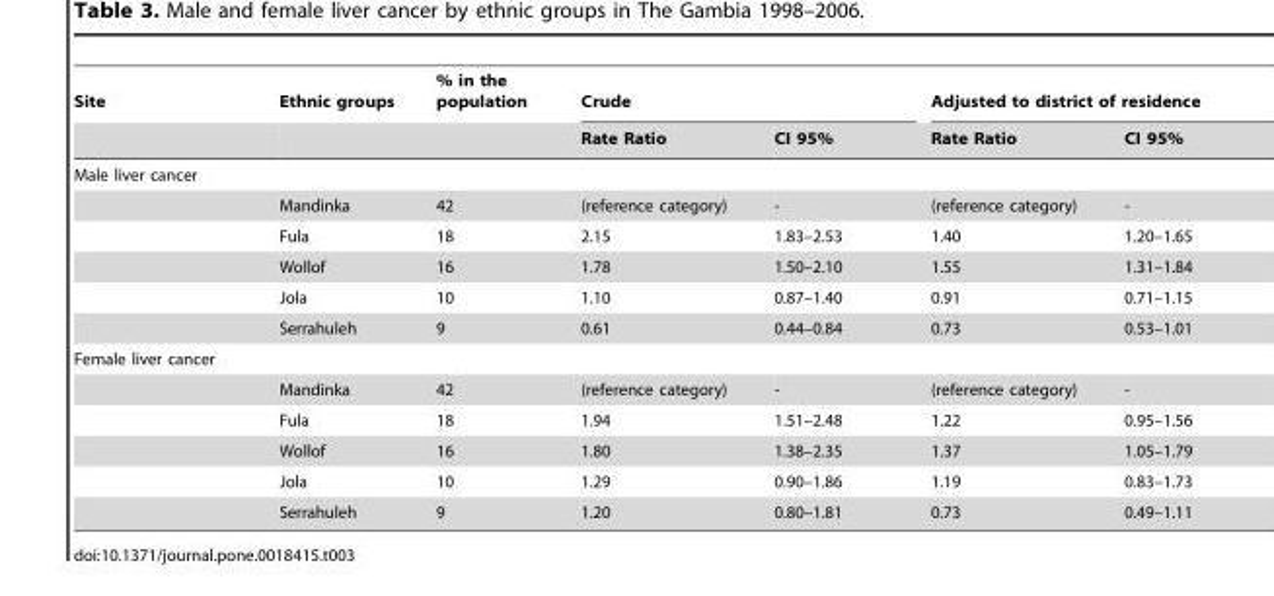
<table><thead><tr><td rowspan="2">Site</td><td rowspan="2">Ethnic groups</td><td rowspan="2">% in the population</td><td colspan="2">Crude</td><td colspan="2">Adjusted to district of residence</td></tr><tr><td>Rate Ratio</td><td>CI 95%</td><td>Rate Ratio</td><td>CI 95%</td></tr></thead><tbody><tr><td colspan="7">Male liver cancer</td></tr><tr><td></td><td>Mandinka</td><td>42</td><td>(reference category)</td><td>-</td><td>(reference category)</td><td>-</td></tr><tr><td></td><td>Fula</td><td>18</td><td>2.15</td><td>1.83–2.53</td><td>1.40</td><td>1.20–1.65</td></tr><tr><td></td><td>Wollof</td><td>16</td><td>1.78</td><td>1.50–2.10</td><td>1.55</td><td>1.31–1.84</td></tr><tr><td></td><td>Jola</td><td>10</td><td>1.10</td><td>0.87–1.40</td><td>0.91</td><td>0.71–1.15</td></tr><tr><td></td><td>Serrahuleh</td><td>9</td><td>0.61</td><td>0.44–0.84</td><td>0.73</td><td>0.53–1.01</td></tr><tr><td colspan="7">Female liver cancer</td></tr><tr><td></td><td>Mandinka</td><td>42</td><td>(reference category)</td><td>-</td><td>(reference category)</td><td>-</td></tr><tr><td></td><td>Fula</td><td>18</td><td>1.94</td><td>1.51–2.48</td><td>1.22</td><td>0.95–1.56</td></tr><tr><td></td><td>Wollof</td><td>16</td><td>1.80</td><td>1.38–2.35</td><td>1.37</td><td>1.05–1.79</td></tr><tr><td></td><td>Jola</td><td>10</td><td>1.29</td><td>0.90–1.86</td><td>1.19</td><td>0.83–1.73</td></tr><tr><td></td><td>Serrahuleh</td><td>9</td><td>1.20</td><td>0.80–1.81</td><td>0.73</td><td>0.49–1.11</td></tr></tbody></table>